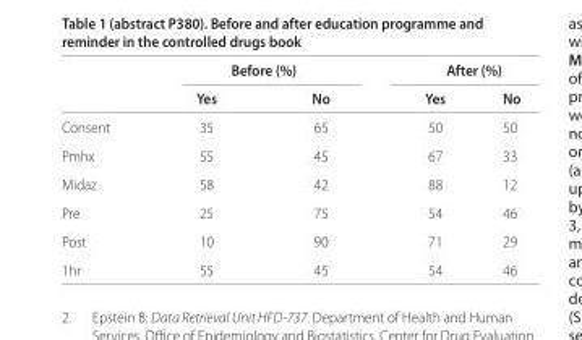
<table><thead><tr><td rowspan="2"></td><td colspan="2">Before (%)</td><td colspan="2">After (%)</td></tr><tr><td>Yes</td><td>No</td><td>Yes</td><td>No</td></tr></thead><tbody><tr><td>Consent</td><td>35</td><td>65</td><td>50</td><td>50</td></tr><tr><td>Pmhx</td><td>55</td><td>45</td><td>67</td><td>33</td></tr><tr><td>Midaz</td><td>58</td><td>42</td><td>88</td><td>12</td></tr><tr><td>Pre</td><td>25</td><td>75</td><td>54</td><td>46</td></tr><tr><td>Post</td><td>10</td><td>90</td><td>71</td><td>29</td></tr><tr><td>1hr</td><td>55</td><td>45</td><td>54</td><td>46</td></tr></tbody></table>